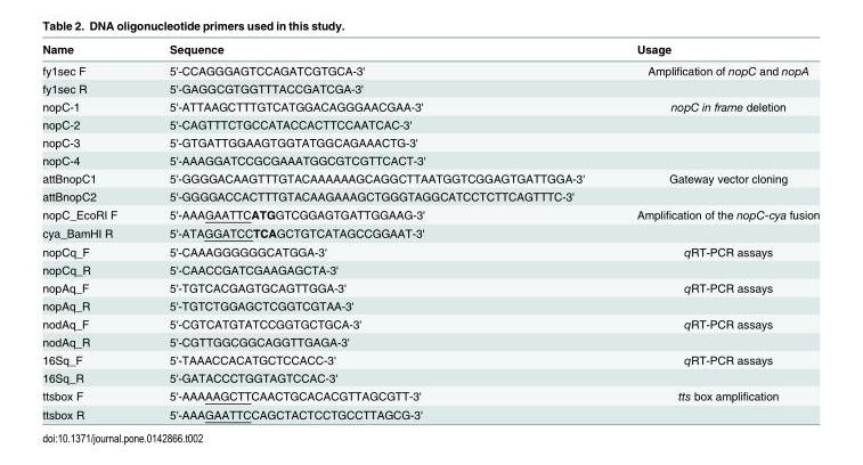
<table><thead><tr><td>Name</td><td>Sequence</td><td>Usage</td></tr></thead><tbody><tr><td>fy1sec F</td><td>5&#x27;-CCAGGGAGTCCAGATCGTGCA-3&#x27;</td><td>Amplification of nopC and nopA</td></tr><tr><td>fy1sec R</td><td>5&#x27;-GAGGCGTGGTTTACCGATCGA-3&#x27;</td><td></td></tr><tr><td>nopC-1</td><td>5&#x27;-ATTAAGCTTTGTCATGGACAGGGAACGAA-3&#x27;</td><td>nopC in frame deletion</td></tr><tr><td>nopC-2</td><td>5&#x27;-CAGTTTCTGCCATACCACTTCCAATCAC-3&#x27;</td><td></td></tr><tr><td>nopC-3</td><td>5&#x27;-GTGATTGGAAGTGGTATGGCAGAAACTG-3&#x27;</td><td></td></tr><tr><td>nopC-4</td><td>5&#x27;-AAAGGATCCGCGAAATGGCGTCGTTCACT-3&#x27;</td><td></td></tr><tr><td>attBnopC1</td><td>5&#x27;-GGGGACAAGTTTGTACAAAAAAGCAGGCTTAATGGTCGGAGTGATTGGA-3&#x27;</td><td>Gateway vector cloning</td></tr><tr><td>attBnopC2</td><td>5&#x27;-GGGGACCACTTTGTACAAGAAAGCTGGGTAGGCATCCTCTTCAGTTTC-3&#x27;</td><td></td></tr><tr><td>nopC_EcoRI F</td><td>5&#x27;-AAAGAATTCATGGTCGGAGTGATTGGAAG-3&#x27;</td><td>Amplification of the nopC-cya fusion</td></tr><tr><td>cya_BamHI R</td><td>5&#x27;-ATAGGATCCTCAGCTGTCATAGCCGGAAT-3&#x27;</td><td></td></tr><tr><td>nopCq_F</td><td>5&#x27;-CAAAGGGGGGCATGGA-3&#x27;</td><td>qRT-PCR assays</td></tr><tr><td>nopCq_R</td><td>5&#x27;-CAACCGATCGAAGAGCTA-3&#x27;</td><td></td></tr><tr><td>nopAq_F</td><td>5&#x27;-TGTCACGAGTGCAGTTGGA-3&#x27;</td><td>qRT-PCR assays</td></tr><tr><td>nopAq_R</td><td>5&#x27;-TGTCTGGAGCTCGGTCGTAA-3&#x27;</td><td></td></tr><tr><td>nodAq_F</td><td>5&#x27;-CGTCATGTATCCGGTGCTGCA-3&#x27;</td><td>qRT-PCR assays</td></tr><tr><td>nodAq_R</td><td>5&#x27;-CGTTGGCGGCAGGTTGAGA-3&#x27;</td><td></td></tr><tr><td>16Sq_F</td><td>5&#x27;-TAAACCACATGCTCCACC-3&#x27;</td><td>qRT-PCR assays</td></tr><tr><td>16Sq_R</td><td>5&#x27;-GATACCCTGGTAGTCCAC-3&#x27;</td><td></td></tr><tr><td>ttsbox F</td><td>5&#x27;-AAAAAGCTTCAACTGCACACGTTAGCGTT-3&#x27;</td><td>tts box amplification</td></tr><tr><td>ttsbox R</td><td>5&#x27;-AAAGAATTCCAGCTACTCCTGCCTTAGCG-3&#x27;</td><td></td></tr></tbody></table>